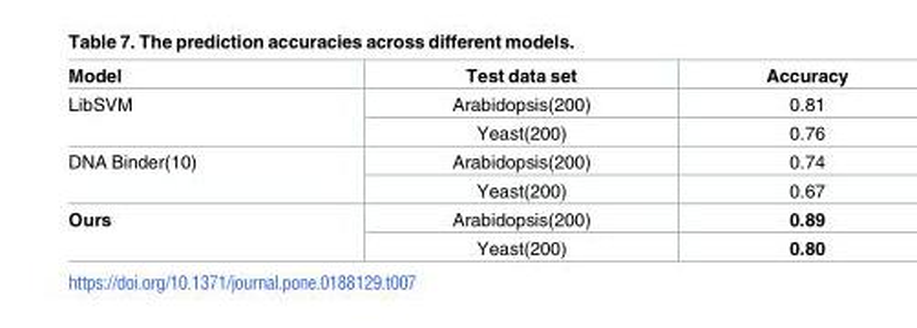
<table><thead><tr><td>Model</td><td>Test data set</td><td>Accuracy</td></tr></thead><tbody><tr><td rowspan="2">LibSVM</td><td>Arabidopsis(200)</td><td>0.81</td></tr><tr><td>Yeast(200)</td><td>0.76</td></tr><tr><td rowspan="2">DNA Binder(10)</td><td>Arabidopsis(200)</td><td>0.74</td></tr><tr><td>Yeast(200)</td><td>0.67</td></tr><tr><td rowspan="2">Ours</td><td>Arabidopsis(200)</td><td>0.89</td></tr><tr><td>Yeast(200)</td><td>0.80</td></tr></tbody></table>